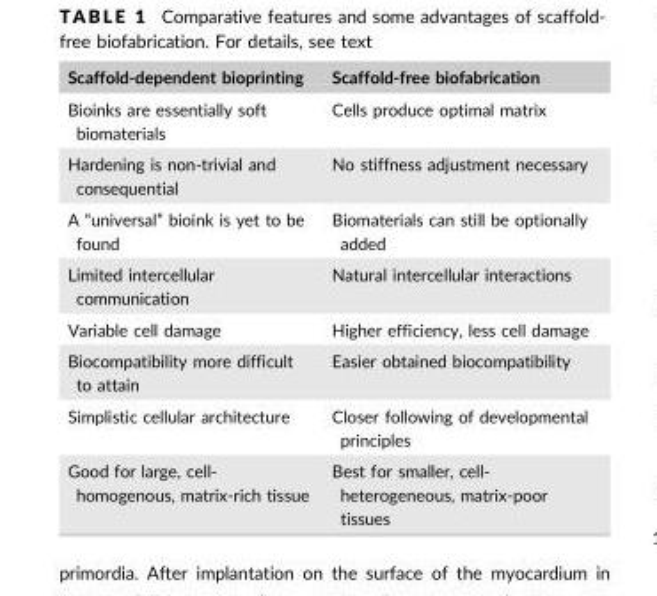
<table><thead><tr><td>Scaffold-dependent bioprinting</td><td>Scaffold-free biofabrication</td></tr></thead><tbody><tr><td>Bioinks are essentially soft biomaterials</td><td>Cells produce optimal matrix</td></tr><tr><td>Hardening is non-trivial and consequential</td><td>No stiffness adjustment necessary</td></tr><tr><td>A “universal” bioink is yet to be found</td><td>Biomaterials can still be optionally added</td></tr><tr><td>Limited intercellular communication</td><td>Natural intercellular interactions</td></tr><tr><td>Variable cell damage</td><td>Higher efficiency, less cell damage</td></tr><tr><td>Biocompatibility more difficult to attain</td><td>Easier obtained biocompatibility</td></tr><tr><td>Simplistic cellular architecture</td><td>Closer following of developmental principles</td></tr><tr><td>Good for large, cell- homogenous, matrix-rich tissue</td><td>Best for smaller, cell- heterogeneous, matrix-poor tissues</td></tr></tbody></table>